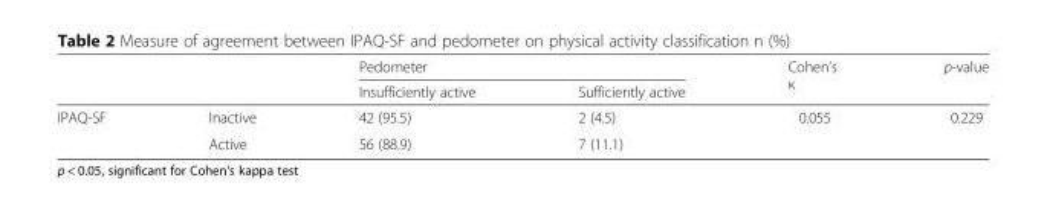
<table><thead><tr><td rowspan="2"></td><td rowspan="2"></td><td colspan="2">Pedometer</td><td rowspan="2">Cohen’s κ</td><td rowspan="2">p-value</td></tr><tr><td>Insufficiently active</td><td>Sufficiently active</td></tr></thead><tbody><tr><td rowspan="2">IPAQ-SF</td><td>Inactive</td><td>42 (95.5)</td><td>2 (4.5)</td><td rowspan="2">0.055</td><td rowspan="2">0.229</td></tr><tr><td>Active</td><td>56 (88.9)</td><td>7 (11.1)</td></tr></tbody></table>